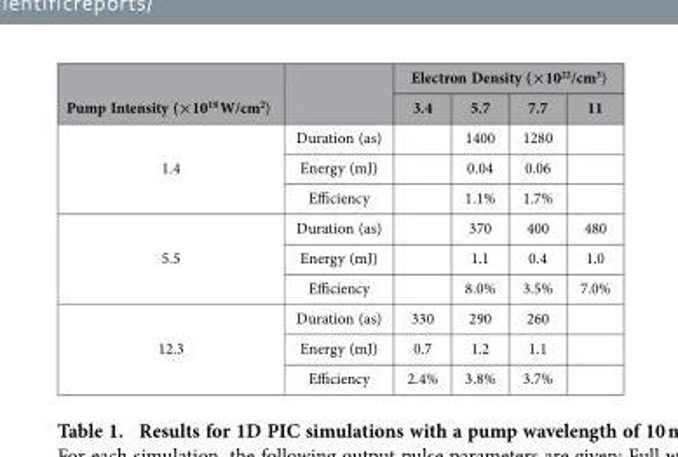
<table><thead><tr><td rowspan="2">Pump Intensity (×10<sup>18</sup> W/cm<sup>2</sup>)</td><td rowspan="2"></td><td colspan="4">Electron Density (×10<sup>22</sup>/cm<sup>3</sup>)</td></tr><tr><td>3.4</td><td>5.7</td><td>7.7</td><td>11</td></tr></thead><tbody><tr><td rowspan="3">1.4</td><td>Duration (as)</td><td></td><td>1400</td><td>1280</td><td></td></tr><tr><td>Energy (mJ)</td><td></td><td>0.04</td><td>0.06</td><td></td></tr><tr><td>Efficiency</td><td></td><td>1.1%</td><td>1.7%</td><td></td></tr><tr><td rowspan="3">5.5</td><td>Duration (as)</td><td></td><td>370</td><td>400</td><td>480</td></tr><tr><td>Energy (mJ)</td><td></td><td>1.1</td><td>0.4</td><td>1.0</td></tr><tr><td>Efficiency</td><td></td><td>8.0%</td><td>3.5%</td><td>7.0%</td></tr><tr><td rowspan="3">12.3</td><td>Duration (as)</td><td>330</td><td>290</td><td>260</td><td></td></tr><tr><td>Energy (mJ)</td><td>0.7</td><td>1.2</td><td>1.1</td><td></td></tr><tr><td>Efficiency</td><td>2.4%</td><td>3.8%</td><td>3.7%</td><td></td></tr></tbody></table>